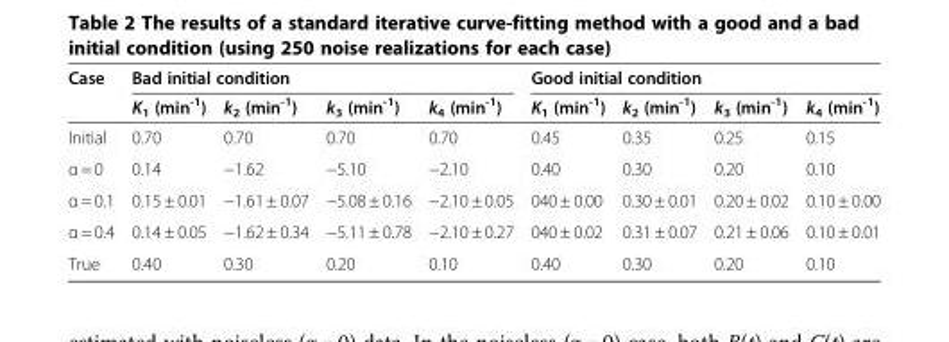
<table><thead><tr><td rowspan="2">Case</td><td colspan="4">Bad initial condition</td><td colspan="4">Good initial condition</td></tr><tr><td>K<sub>1</sub> (min<sup>-1</sup>)</td><td>k<sub>2</sub> (min<sup>-1</sup>)</td><td>k<sub>3</sub> (min<sup>-1</sup>)</td><td>k<sub>4</sub> (min<sup>-1</sup>)</td><td>K<sub>1</sub> (min<sup>-1</sup>)</td><td>k<sub>2</sub> (min<sup>-1</sup>)</td><td>k<sub>3</sub> (min<sup>-1</sup>)</td><td>k<sub>4</sub> (min<sup>-1</sup>)</td></tr></thead><tbody><tr><td>Initial</td><td>0.70</td><td>0.70</td><td>0.70</td><td>0.70</td><td>0.45</td><td>0.35</td><td>0.25</td><td>0.15</td></tr><tr><td>α = 0</td><td>0.14</td><td>−1.62</td><td>−5.10</td><td>−2.10</td><td>0.40</td><td>0.30</td><td>0.20</td><td>0.10</td></tr><tr><td>α = 0.1</td><td>0.15 ± 0.01</td><td>−1.61 ± 0.07</td><td>−5.08 ± 0.16</td><td>−2.10 ± 0.05</td><td>040 ± 0.00</td><td>0.30 ± 0.01</td><td>0.20 ± 0.02</td><td>0.10 ± 0.00</td></tr><tr><td>α = 0.4</td><td>0.14 ± 0.05</td><td>−1.62 ± 0.34</td><td>−5.11 ± 0.78</td><td>−2.10 ± 0.27</td><td>040 ± 0.02</td><td>0.31 ± 0.07</td><td>0.21 ± 0.06</td><td>0.10 ± 0.01</td></tr><tr><td>True</td><td>0.40</td><td>0.30</td><td>0.20</td><td>0.10</td><td>0.40</td><td>0.30</td><td>0.20</td><td>0.10</td></tr></tbody></table>